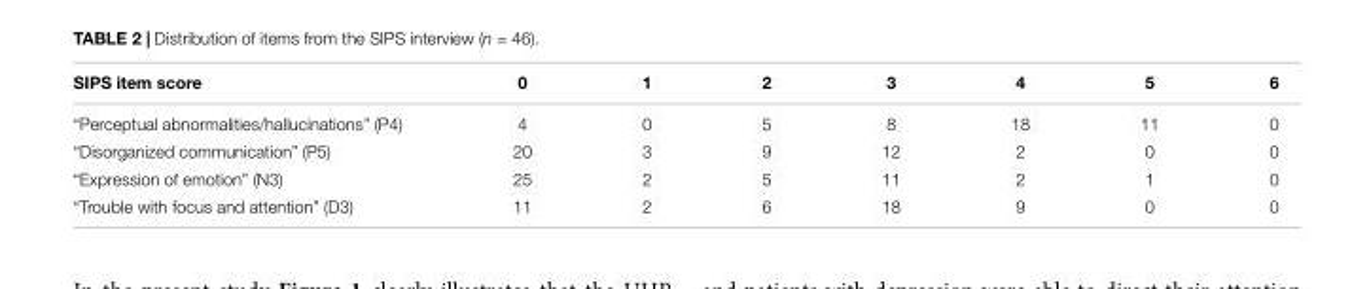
<table><thead><tr><td>SIPS item score</td><td>0</td><td>1</td><td>2</td><td>3</td><td>4</td><td>5</td><td>6</td></tr></thead><tbody><tr><td>“Perceptual abnormalities/hallucinations” (P4)</td><td>4</td><td>0</td><td>5</td><td>8</td><td>18</td><td>11</td><td>0</td></tr><tr><td>“Disorganized communication” (P5)</td><td>20</td><td>3</td><td>9</td><td>12</td><td>2</td><td>0</td><td>0</td></tr><tr><td>“Expression of emotion” (N3)</td><td>25</td><td>2</td><td>5</td><td>11</td><td>2</td><td>1</td><td>0</td></tr><tr><td>“Trouble with focus and attention” (D3)</td><td>11</td><td>2</td><td>6</td><td>18</td><td>9</td><td>0</td><td>0</td></tr></tbody></table>